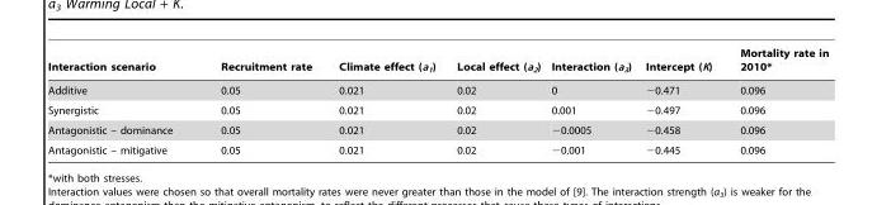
<table><thead><tr><td>Interaction scenario</td><td>Recruitment rate</td><td>Climate effect (a<sub>1</sub>)</td><td>Local effect (a<sub>2</sub>)</td><td>Interaction (a<sub>3</sub>)</td><td>Intercept (K)</td><td>Mortality rate in 2010*</td></tr></thead><tbody><tr><td>Additive</td><td>0.05</td><td>0.021</td><td>0.02</td><td>0</td><td>−0.471</td><td>0.096</td></tr><tr><td>Synergistic</td><td>0.05</td><td>0.021</td><td>0.02</td><td>0.001</td><td>−0.497</td><td>0.096</td></tr><tr><td>Antagonistic – dominance</td><td>0.05</td><td>0.021</td><td>0.02</td><td>−0.0005</td><td>−0.458</td><td>0.096</td></tr><tr><td>Antagonistic – mitigative</td><td>0.05</td><td>0.021</td><td>0.02</td><td>−0.001</td><td>−0.445</td><td>0.096</td></tr></tbody></table>